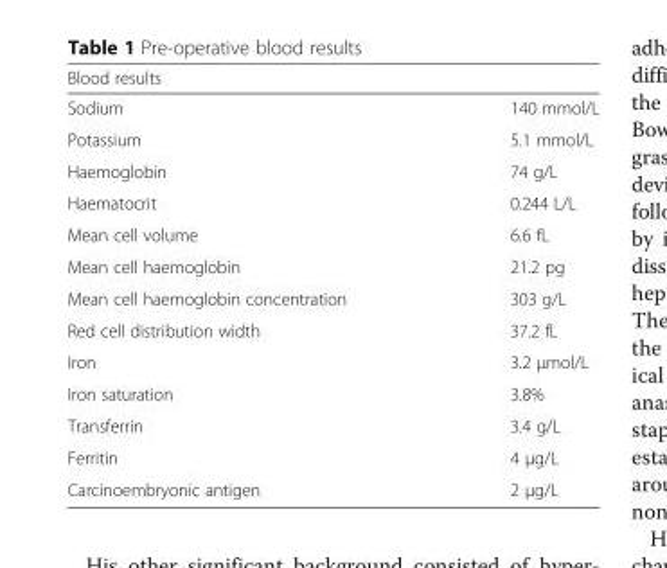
<table><thead><tr><td colspan="2">Blood results</td></tr><tr><td>Sodium</td><td>140 mmol/L</td></tr></thead><tbody><tr><td>Potassium</td><td>5.1 mmol/L</td></tr><tr><td>Haemoglobin</td><td>74 g/L</td></tr><tr><td>Haematocrit</td><td>0.244 L/L</td></tr><tr><td>Mean cell volume</td><td>6.6 fL</td></tr><tr><td>Mean cell haemoglobin</td><td>21.2 pg</td></tr><tr><td>Mean cell haemoglobin concentration</td><td>303 g/L</td></tr><tr><td>Red cell distribution width</td><td>37.2 fL</td></tr><tr><td>Iron</td><td>3.2 μmol/L</td></tr><tr><td>Iron saturation</td><td>3.8%</td></tr><tr><td>Transferrin</td><td>3.4 g/L</td></tr><tr><td>Ferritin</td><td>4 μg/L</td></tr><tr><td>Carcinoembryonic antigen</td><td>2 μg/L</td></tr></tbody></table>